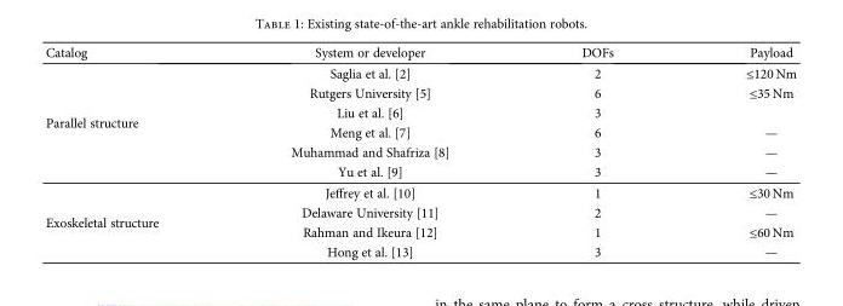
<table><thead><tr><td>Catalog</td><td>System or developer</td><td>DOFs</td><td>Payload</td></tr></thead><tbody><tr><td rowspan="6">Parallel structure</td><td>Saglia et al. [2]</td><td>2</td><td>≤120 Nm</td></tr><tr><td>Rutgers University [5]</td><td>6</td><td>≤35 Nm</td></tr><tr><td>Liu et al. [6]</td><td>3</td><td></td></tr><tr><td>Meng et al. [7]</td><td>6</td><td>—</td></tr><tr><td>Muhammad and Shafriza [8]</td><td>3</td><td>—</td></tr><tr><td>Yu et al. [9]</td><td>3</td><td>—</td></tr><tr><td rowspan="4">Exoskeletal structure</td><td>Jeffrey et al. [10]</td><td>1</td><td>≤30 Nm</td></tr><tr><td>Delaware University [11]</td><td>2</td><td>—</td></tr><tr><td>Rahman and Ikeura [12]</td><td>1</td><td>≤60 Nm</td></tr><tr><td>Hong et al. [13]</td><td>3</td><td>—</td></tr></tbody></table>